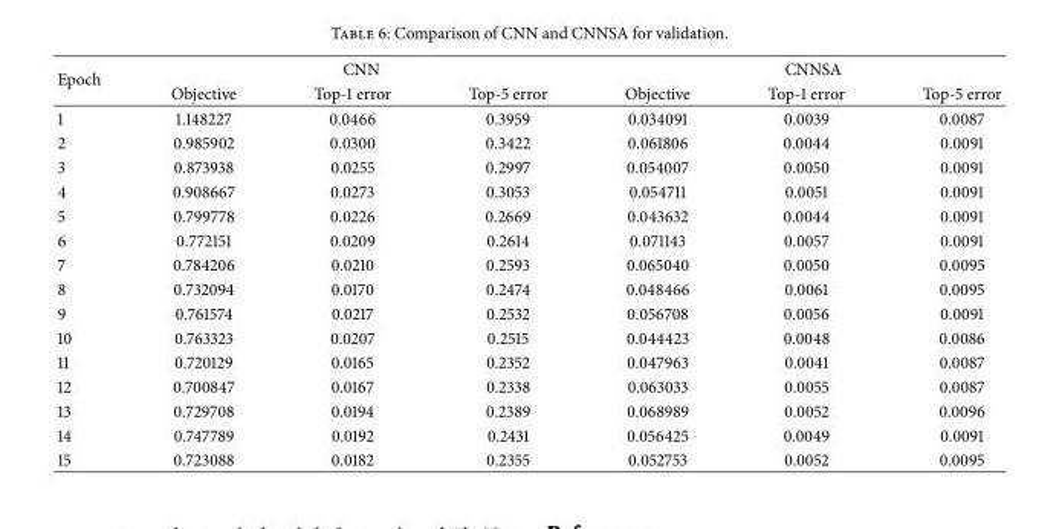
<table><thead><tr><td rowspan="2">Epoch</td><td colspan="3">CNN</td><td colspan="3">CNNSA</td></tr><tr><td>Objective</td><td>Top-1 error</td><td>Top-5 error</td><td>Objective</td><td>Top-1 error</td><td>Top-5 error</td></tr></thead><tbody><tr><td>1</td><td>1.148227</td><td>0.0466</td><td>0.3959</td><td>0.034091</td><td>0.0039</td><td>0.0087</td></tr><tr><td>2</td><td>0.985902</td><td>0.0300</td><td>0.3422</td><td>0.061806</td><td>0.0044</td><td>0.0091</td></tr><tr><td>3</td><td>0.873938</td><td>0.0255</td><td>0.2997</td><td>0.054007</td><td>0.0050</td><td>0.0091</td></tr><tr><td>4</td><td>0.908667</td><td>0.0273</td><td>0.3053</td><td>0.054711</td><td>0.0051</td><td>0.0091</td></tr><tr><td>5</td><td>0.799778</td><td>0.0226</td><td>0.2669</td><td>0.043632</td><td>0.0044</td><td>0.0091</td></tr><tr><td>6</td><td>0.772151</td><td>0.0209</td><td>0.2614</td><td>0.071143</td><td>0.0057</td><td>0.0091</td></tr><tr><td>7</td><td>0.784206</td><td>0.0210</td><td>0.2593</td><td>0.065040</td><td>0.0050</td><td>0.0095</td></tr><tr><td>8</td><td>0.732094</td><td>0.0170</td><td>0.2474</td><td>0.048466</td><td>0.0061</td><td>0.0095</td></tr><tr><td>9</td><td>0.761574</td><td>0.0217</td><td>0.2532</td><td>0.056708</td><td>0.0056</td><td>0.0091</td></tr><tr><td>10</td><td>0.763323</td><td>0.0207</td><td>0.2515</td><td>0.044423</td><td>0.0048</td><td>0.0086</td></tr><tr><td>11</td><td>0.720129</td><td>0.0165</td><td>0.2352</td><td>0.047963</td><td>0.0041</td><td>0.0087</td></tr><tr><td>12</td><td>0.700847</td><td>0.0167</td><td>0.2338</td><td>0.063033</td><td>0.0055</td><td>0.0087</td></tr><tr><td>13</td><td>0.729708</td><td>0.0194</td><td>0.2389</td><td>0.068989</td><td>0.0052</td><td>0.0096</td></tr><tr><td>14</td><td>0.747789</td><td>0.0192</td><td>0.2431</td><td>0.056425</td><td>0.0049</td><td>0.0091</td></tr><tr><td>15</td><td>0.723088</td><td>0.0182</td><td>0.2355</td><td>0.052753</td><td>0.0052</td><td>0.0095</td></tr></tbody></table>